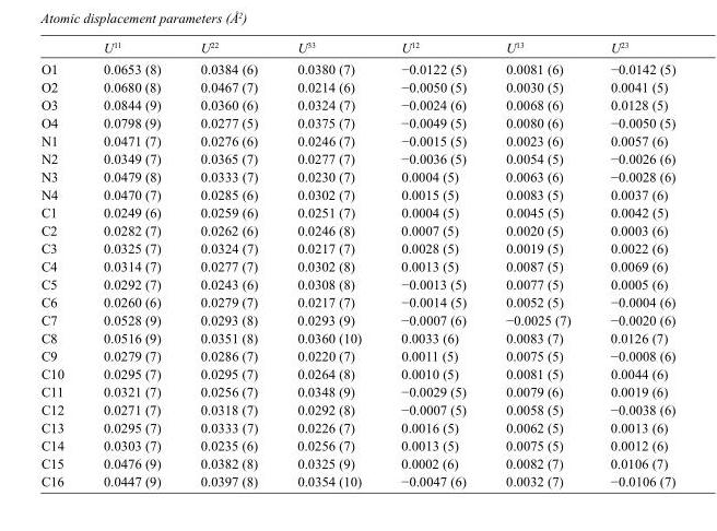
<table><thead><tr><td></td><td>U<sup>11</sup></td><td>U<sup>22</sup></td><td>U<sup>33</sup></td><td>U<sup>12</sup></td><td>U<sup>13</sup></td><td>U<sup>23</sup></td></tr></thead><tbody><tr><td>O1</td><td>0.0653 (8)</td><td>0.0384 (6)</td><td>0.0380 (7)</td><td>−0.0122 (5)</td><td>0.0081 (6)</td><td>−0.0142 (5)</td></tr><tr><td>O2</td><td>0.0680 (8)</td><td>0.0467 (7)</td><td>0.0214 (6)</td><td>−0.0050 (5)</td><td>0.0030 (5)</td><td>0.0041 (5)</td></tr><tr><td>O3</td><td>0.0844 (9)</td><td>0.0360 (6)</td><td>0.0324 (7)</td><td>−0.0024 (6)</td><td>0.0068 (6)</td><td>0.0128 (5)</td></tr><tr><td>O4</td><td>0.0798 (9)</td><td>0.0277 (5)</td><td>0.0375 (7)</td><td>−0.0049 (5)</td><td>0.0080 (6)</td><td>−0.0050 (5)</td></tr><tr><td>N1</td><td>0.0471 (7)</td><td>0.0276 (6)</td><td>0.0246 (7)</td><td>−0.0015 (5)</td><td>0.0023 (6)</td><td>0.0057 (6)</td></tr><tr><td>N2</td><td>0.0349 (7)</td><td>0.0365 (7)</td><td>0.0277 (7)</td><td>−0.0036 (5)</td><td>0.0054 (5)</td><td>−0.0026 (6)</td></tr><tr><td>N3</td><td>0.0479 (8)</td><td>0.0333 (7)</td><td>0.0230 (7)</td><td>0.0004 (5)</td><td>0.0063 (6)</td><td>−0.0028 (6)</td></tr><tr><td>N4</td><td>0.0470 (7)</td><td>0.0285 (6)</td><td>0.0302 (7)</td><td>0.0015 (5)</td><td>0.0083 (5)</td><td>0.0037 (6)</td></tr><tr><td>C1</td><td>0.0249 (6)</td><td>0.0259 (6)</td><td>0.0251 (7)</td><td>0.0004 (5)</td><td>0.0045 (5)</td><td>0.0042 (5)</td></tr><tr><td>C2</td><td>0.0282 (7)</td><td>0.0262 (6)</td><td>0.0246 (8)</td><td>0.0007 (5)</td><td>0.0020 (5)</td><td>0.0003 (6)</td></tr><tr><td>C3</td><td>0.0325 (7)</td><td>0.0324 (7)</td><td>0.0217 (7)</td><td>0.0028 (5)</td><td>0.0019 (5)</td><td>0.0022 (6)</td></tr><tr><td>C4</td><td>0.0314 (7)</td><td>0.0277 (7)</td><td>0.0302 (8)</td><td>0.0013 (5)</td><td>0.0087 (5)</td><td>0.0069 (6)</td></tr><tr><td>C5</td><td>0.0292 (7)</td><td>0.0243 (6)</td><td>0.0308 (8)</td><td>−0.0013 (5)</td><td>0.0077 (5)</td><td>0.0005 (6)</td></tr><tr><td>C6</td><td>0.0260 (6)</td><td>0.0279 (7)</td><td>0.0217 (7)</td><td>−0.0014 (5)</td><td>0.0052 (5)</td><td>−0.0004 (6)</td></tr><tr><td>C7</td><td>0.0528 (9)</td><td>0.0293 (8)</td><td>0.0293 (9)</td><td>−0.0007 (6)</td><td>−0.0025 (7)</td><td>−0.0020 (6)</td></tr><tr><td>C8</td><td>0.0516 (9)</td><td>0.0351 (8)</td><td>0.0360 (10)</td><td>0.0033 (6)</td><td>0.0083 (7)</td><td>0.0126 (7)</td></tr><tr><td>C9</td><td>0.0279 (7)</td><td>0.0286 (7)</td><td>0.0220 (7)</td><td>0.0011 (5)</td><td>0.0075 (5)</td><td>−0.0008 (6)</td></tr><tr><td>C10</td><td>0.0295 (7)</td><td>0.0295 (7)</td><td>0.0264 (8)</td><td>0.0010 (5)</td><td>0.0081 (5)</td><td>0.0044 (6)</td></tr><tr><td>C11</td><td>0.0321 (7)</td><td>0.0256 (7)</td><td>0.0348 (9)</td><td>−0.0029 (5)</td><td>0.0079 (6)</td><td>0.0019 (6)</td></tr><tr><td>C12</td><td>0.0271 (7)</td><td>0.0318 (7)</td><td>0.0292 (8)</td><td>−0.0007 (5)</td><td>0.0058 (5)</td><td>−0.0038 (6)</td></tr><tr><td>C13</td><td>0.0295 (7)</td><td>0.0333 (7)</td><td>0.0226 (7)</td><td>0.0016 (5)</td><td>0.0062 (5)</td><td>0.0013 (6)</td></tr><tr><td>C14</td><td>0.0303 (7)</td><td>0.0235 (6)</td><td>0.0256 (7)</td><td>0.0013 (5)</td><td>0.0075 (5)</td><td>0.0012 (6)</td></tr><tr><td>C15</td><td>0.0476 (9)</td><td>0.0382 (8)</td><td>0.0325 (9)</td><td>0.0002 (6)</td><td>0.0082 (7)</td><td>0.0106 (7)</td></tr><tr><td>C16</td><td>0.0447 (9)</td><td>0.0397 (8)</td><td>0.0354 (10)</td><td>−0.0047 (6)</td><td>0.0032 (7)</td><td>−0.0106 (7)</td></tr></tbody></table>